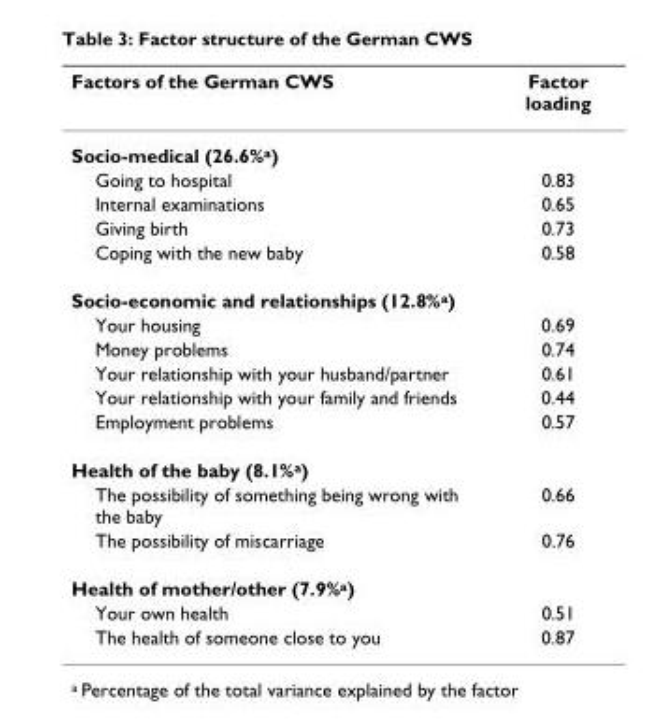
<table><thead><tr><td>Factors of the German CWS</td><td>Factor loading</td></tr></thead><tbody><tr><td colspan="2">Socio-medical (26.6%<sup>a</sup>)</td></tr><tr><td>Going to hospital</td><td>0.83</td></tr><tr><td>Internal examinations</td><td>0.65</td></tr><tr><td>Giving birth</td><td>0.73</td></tr><tr><td>Coping with the new baby</td><td>0.58</td></tr><tr><td colspan="2">Socio-economic and relationships (12.8%<sup>a</sup>)</td></tr><tr><td>Your housing</td><td>0.69</td></tr><tr><td>Money problems</td><td>0.74</td></tr><tr><td>Your relationship with your husband/partner</td><td>0.61</td></tr><tr><td>Your relationship with your family and friends</td><td>0.44</td></tr><tr><td>Employment problems</td><td>0.57</td></tr><tr><td colspan="2">Health of the baby (8.1%<sup>a</sup>)</td></tr><tr><td>The possibility of something being wrong with the baby</td><td>0.66</td></tr><tr><td>The possibility of miscarriage</td><td>0.76</td></tr><tr><td colspan="2">Health of mother/other (7.9%<sup>a</sup>)</td></tr><tr><td>Your own health</td><td>0.51</td></tr><tr><td>The health of someone close to you</td><td>0.87</td></tr></tbody></table>